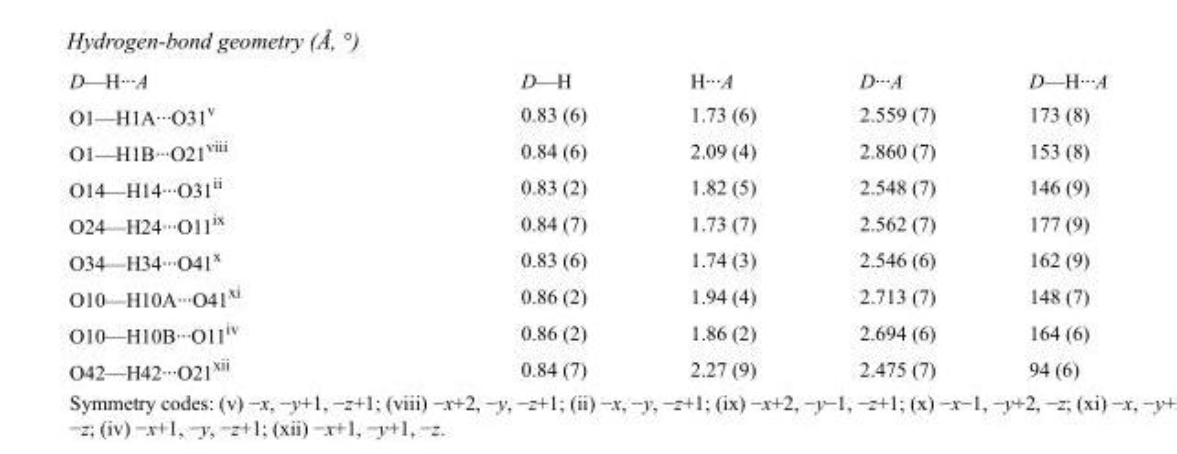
<table><tbody><tr><td>D—H···A</td><td>D—H</td><td>H···A</td><td>D···A</td><td>D—H···A</td></tr><tr><td>O1—H1A···O31<sup>v</sup></td><td>0.83 (6)</td><td>1.73 (6)</td><td>2.559 (7)</td><td>173 (8)</td></tr><tr><td>O1—H1B···O21<sup>viii</sup></td><td>0.84 (6)</td><td>2.09 (4)</td><td>2.860 (7)</td><td>153 (8)</td></tr><tr><td>O14—H14···O31<sup>ii</sup></td><td>0.83 (2)</td><td>1.82 (5)</td><td>2.548 (7)</td><td>146 (9)</td></tr><tr><td>O24—H24···O11<sup>ix</sup></td><td>0.84 (7)</td><td>1.73 (7)</td><td>2.562 (7)</td><td>177 (9)</td></tr><tr><td>O34—H34···O41<sup>x</sup></td><td>0.83 (6)</td><td>1.74 (3)</td><td>2.546 (6)</td><td>162 (9)</td></tr><tr><td>O10—H10A···O41<sup>xi</sup></td><td>0.86 (2)</td><td>1.94 (4)</td><td>2.713 (7)</td><td>148 (7)</td></tr><tr><td>O10—H10B···O11<sup>iv</sup></td><td>0.86 (2)</td><td>1.86 (2)</td><td>2.694 (6)</td><td>164 (6)</td></tr><tr><td>O42—H42···O21<sup>xii</sup></td><td>0.84 (7)</td><td>2.27 (9)</td><td>2.475 (7)</td><td>94 (6)</td></tr></tbody></table>